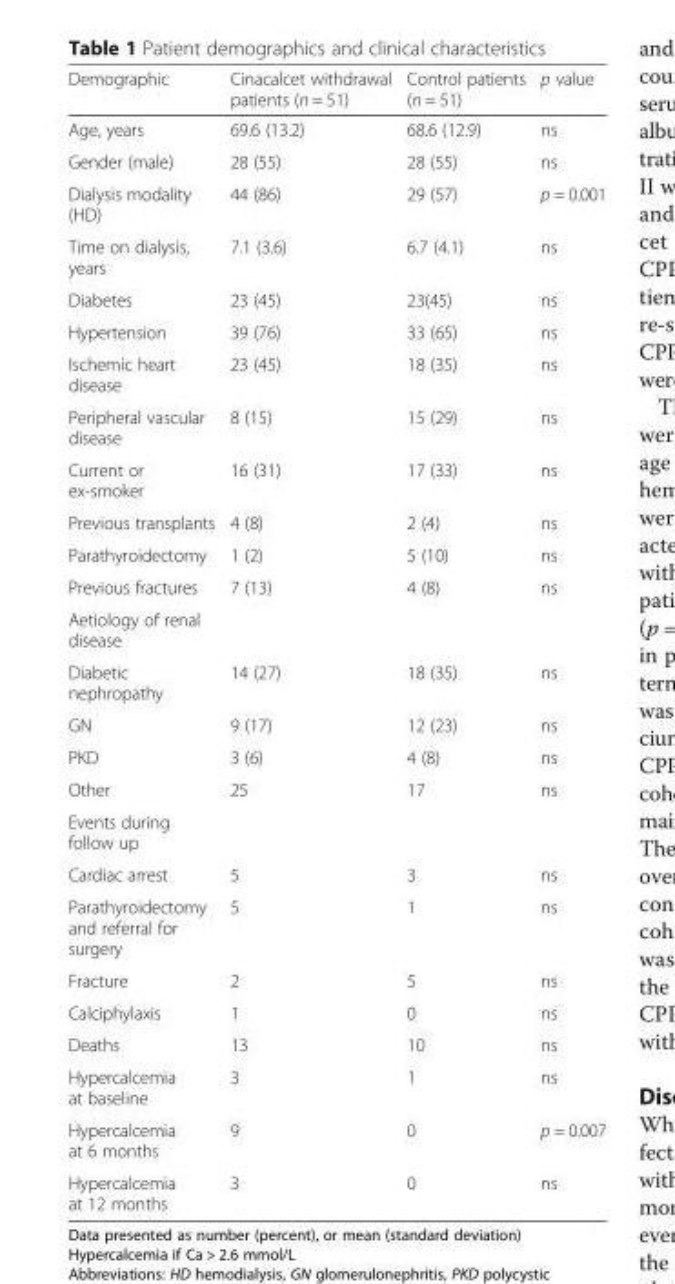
<table><thead><tr><td>Demographic</td><td>Cinacalcet withdrawal patients (n = 51)</td><td>Control patients (n = 51)</td><td>p value</td></tr></thead><tbody><tr><td>Age, years</td><td>69.6 (13.2)</td><td>68.6 (12.9)</td><td>ns</td></tr><tr><td>Gender (male)</td><td>28 (55)</td><td>28 (55)</td><td>ns</td></tr><tr><td>Dialysis modality (HD)</td><td>44 (86)</td><td>29 (57)</td><td>p = 0.001</td></tr><tr><td>Time on dialysis, years</td><td>7.1 (3.6)</td><td>6.7 (4.1)</td><td>ns</td></tr><tr><td>Diabetes</td><td>23 (45)</td><td>23(45)</td><td>ns</td></tr><tr><td>Hypertension</td><td>39 (76)</td><td>33 (65)</td><td>ns</td></tr><tr><td>Ischemic heart disease</td><td>23 (45)</td><td>18 (35)</td><td>ns</td></tr><tr><td>Peripheral vascular disease</td><td>8 (15)</td><td>15 (29)</td><td>ns</td></tr><tr><td>Current or ex-smoker</td><td>16 (31)</td><td>17 (33)</td><td>ns</td></tr><tr><td>Previous transplants</td><td>4 (8)</td><td>2 (4)</td><td>ns</td></tr><tr><td>Parathyroidectomy</td><td>1 (2)</td><td>5 (10)</td><td>ns</td></tr><tr><td>Previous fractures</td><td>7 (13)</td><td>4 (8)</td><td>ns</td></tr><tr><td colspan="4">Aetiology of renal disease</td></tr><tr><td>Diabetic nephropathy</td><td>14 (27)</td><td>18 (35)</td><td>ns</td></tr><tr><td>GN</td><td>9 (17)</td><td>12 (23)</td><td>ns</td></tr><tr><td>PKD</td><td>3 (6)</td><td>4 (8)</td><td>ns</td></tr><tr><td>Other</td><td>25</td><td>17</td><td>ns</td></tr><tr><td colspan="4">Events during follow up</td></tr><tr><td>Cardiac arrest</td><td>5</td><td>3</td><td>ns</td></tr><tr><td>Parathyroidectomy and referral for surgery</td><td>5</td><td>1</td><td>ns</td></tr><tr><td>Fracture</td><td>2</td><td>5</td><td>ns</td></tr><tr><td>Calciphylaxis</td><td>1</td><td>0</td><td>ns</td></tr><tr><td>Deaths</td><td>13</td><td>10</td><td>ns</td></tr><tr><td>Hypercalcemia at baseline</td><td>3</td><td>1</td><td>ns</td></tr><tr><td>Hypercalcemia at 6 months</td><td>9</td><td>0</td><td>p = 0.007</td></tr><tr><td>Hypercalcemia at 12 months</td><td>3</td><td>0</td><td>ns</td></tr></tbody></table>